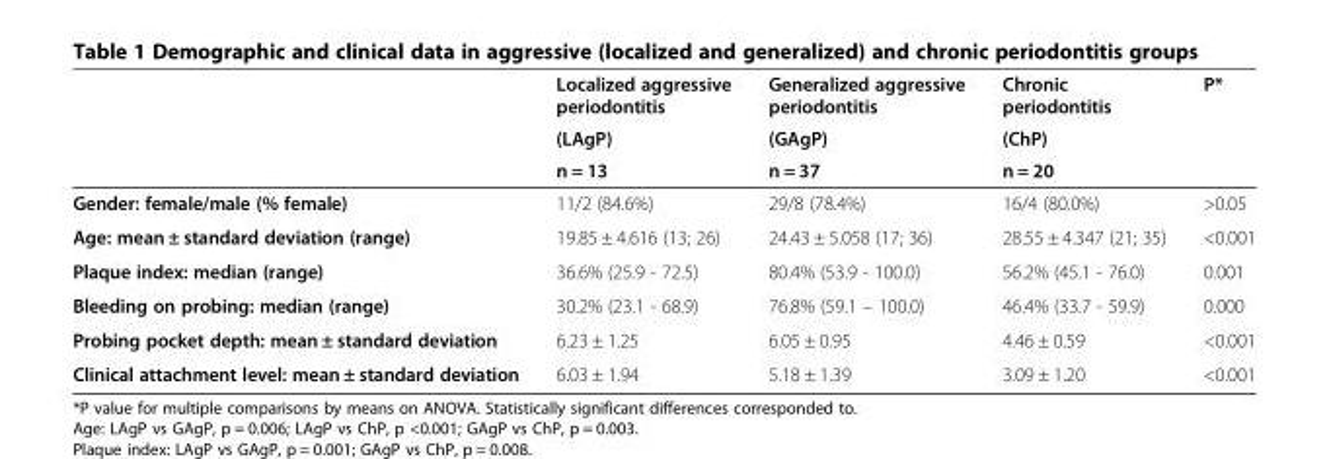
<table><thead><tr><td rowspan="3"></td><td rowspan="3">Localized aggressive periodontitis (LAgP) n = 13</td><td rowspan="3">Generalized aggressive periodontitis (GAgP) n = 37</td><td rowspan="3">Chronic periodontitis (ChP) n = 20</td><td rowspan="3">P*</td></tr><tr></tr><tr></tr></thead><tbody><tr><td>Gender: female/male (% female)</td><td>11/2 (84.6%)</td><td>29/8 (78.4%)</td><td>16/4 (80.0%)</td><td>&gt;0.05</td></tr><tr><td>Age: mean ± standard deviation (range)</td><td>19.85 ± 4.616 (13; 26)</td><td>24.43 ± 5.058 (17; 36)</td><td>28.55 ± 4.347 (21; 35)</td><td>&lt;0.001</td></tr><tr><td>Plaque index: median (range)</td><td>36.6% (25.9 - 72.5)</td><td>80.4% (53.9 - 100.0)</td><td>56.2% (45.1 - 76.0)</td><td>0.001</td></tr><tr><td>Bleeding on probing: median (range)</td><td>30.2% (23.1 - 68.9)</td><td>76.8% (59.1 – 100.0)</td><td>46.4% (33.7 - 59.9)</td><td>0.000</td></tr><tr><td>Probing pocket depth: mean ± standard deviation</td><td>6.23 ± 1.25</td><td>6.05 ± 0.95</td><td>4.46 ± 0.59</td><td>&lt;0.001</td></tr><tr><td>Clinical attachment level: mean ± standard deviation</td><td>6.03 ± 1.94</td><td>5.18 ± 1.39</td><td>3.09 ± 1.20</td><td>&lt;0.001</td></tr></tbody></table>